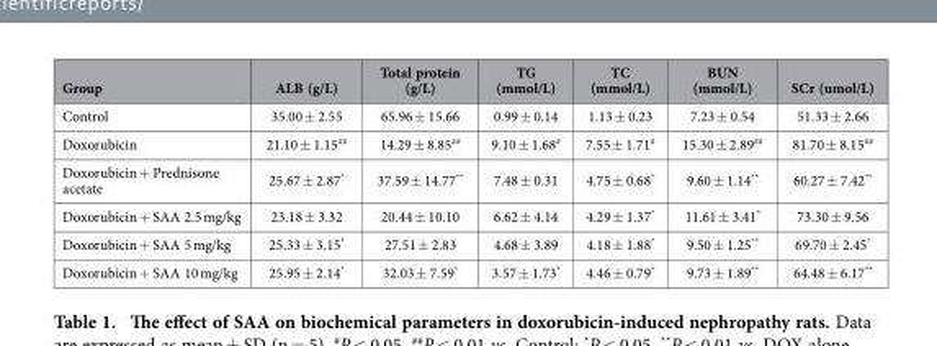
<table><thead><tr><td>Group</td><td>ALB (g/L)</td><td>Total protein (g/L)</td><td>TG (mmol/L)</td><td>TC (mmol/L)</td><td>BUN (mmol/L)</td><td>SCr (umol/L)</td></tr></thead><tbody><tr><td>Control</td><td>35.00 ± 2.55</td><td>65.96 ± 15.66</td><td>0.99 ± 0.14</td><td>1.13 ± 0.23</td><td>7.23 ± 0.54</td><td>51.33 ± 2.66</td></tr><tr><td>Doxorubicin</td><td>21.10 ± 1.15<sup>##</sup></td><td>14.29 ± 8.85<sup>##</sup></td><td>9.10 ± 1.68<sup>#</sup></td><td>7.55 ± 1.71<sup>#</sup></td><td>15.30 ± 2.89<sup>##</sup></td><td>81.70 ± 8.15<sup>##</sup></td></tr><tr><td>Doxorubicin + Prednisone acetate</td><td>25.67 ± 2.87*</td><td>37.59 ± 14.77**</td><td>7.48 ± 0.31</td><td>4.75 ± 0.68*</td><td>9.60 ± 1.14**</td><td>60.27 ± 7.42**</td></tr><tr><td>Doxorubicin + SAA 2.5 mg/kg</td><td>23.18 ± 3.32</td><td>20.44 ± 10.10</td><td>6.62 ± 4.14</td><td>4.29 ± 1.37*</td><td>11.61 ± 3.41*</td><td>73.30 ± 9.56</td></tr><tr><td>Doxorubicin + SAA 5 mg/kg</td><td>25.33 ± 3.15*</td><td>27.51 ± 2.83</td><td>4.68 ± 3.89</td><td>4.18 ± 1.88*</td><td>9.50 ± 1.25**</td><td>69.70 ± 2.45*</td></tr><tr><td>Doxorubicin + SAA 10 mg/kg</td><td>25.95 ± 2.14*</td><td>32.03 ± 7.59*</td><td>3.57 ± 1.73*</td><td>4.46 ± 0.79*</td><td>9.73 ± 1.89**</td><td>64.48 ± 6.17**</td></tr></tbody></table>